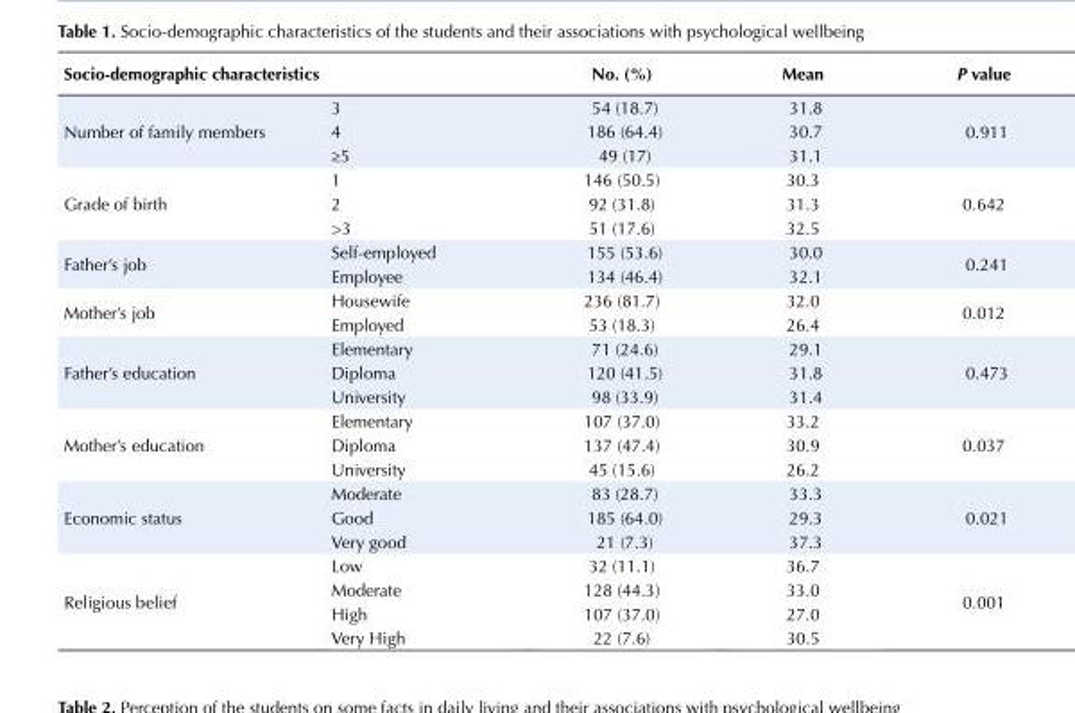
<table><tbody><tr><td colspan="2">Socio-demographic characteristics</td><td>No. (%)</td><td>Mean</td><td>P value</td></tr><tr><td rowspan="3">Number of family members</td><td>3</td><td>54 (18.7)</td><td>31.8</td><td rowspan="3">0.911</td></tr><tr><td>4</td><td>186 (64.4)</td><td>30.7</td></tr><tr><td>≥5</td><td>49 (17)</td><td>31.1</td></tr><tr><td rowspan="3">Grade of birth</td><td>1</td><td>146 (50.5)</td><td>30.3</td><td rowspan="3">0.642</td></tr><tr><td>2</td><td>92 (31.8)</td><td>31.3</td></tr><tr><td>&gt;3</td><td>51 (17.6)</td><td>32.5</td></tr><tr><td rowspan="2">Father’s job</td><td>Self-employed</td><td>155 (53.6)</td><td>30.0</td><td rowspan="2">0.241</td></tr><tr><td>Employee</td><td>134 (46.4)</td><td>32.1</td></tr><tr><td rowspan="2">Mother’s job</td><td>Housewife</td><td>236 (81.7)</td><td>32.0</td><td rowspan="2">0.012</td></tr><tr><td>Employed</td><td>53 (18.3)</td><td>26.4</td></tr><tr><td rowspan="3">Father’s education</td><td>Elementary</td><td>71 (24.6)</td><td>29.1</td><td rowspan="3">0.473</td></tr><tr><td>Diploma</td><td>120 (41.5)</td><td>31.8</td></tr><tr><td>University</td><td>98 (33.9)</td><td>31.4</td></tr><tr><td rowspan="3">Mother’s education</td><td>Elementary</td><td>107 (37.0)</td><td>33.2</td><td rowspan="3">0.037</td></tr><tr><td>Diploma</td><td>137 (47.4)</td><td>30.9</td></tr><tr><td>University</td><td>45 (15.6)</td><td>26.2</td></tr><tr><td rowspan="3">Economic status</td><td>Moderate</td><td>83 (28.7)</td><td>33.3</td><td rowspan="3">0.021</td></tr><tr><td>Good</td><td>185 (64.0)</td><td>29.3</td></tr><tr><td>Very good</td><td>21 (7.3)</td><td>37.3</td></tr><tr><td rowspan="4">Religious belief</td><td>Low</td><td>32 (11.1)</td><td>36.7</td><td rowspan="4">0.001</td></tr><tr><td>Moderate</td><td>128 (44.3)</td><td>33.0</td></tr><tr><td>High</td><td>107 (37.0)</td><td>27.0</td></tr><tr><td>Very High</td><td>22 (7.6)</td><td>30.5</td></tr></tbody></table>